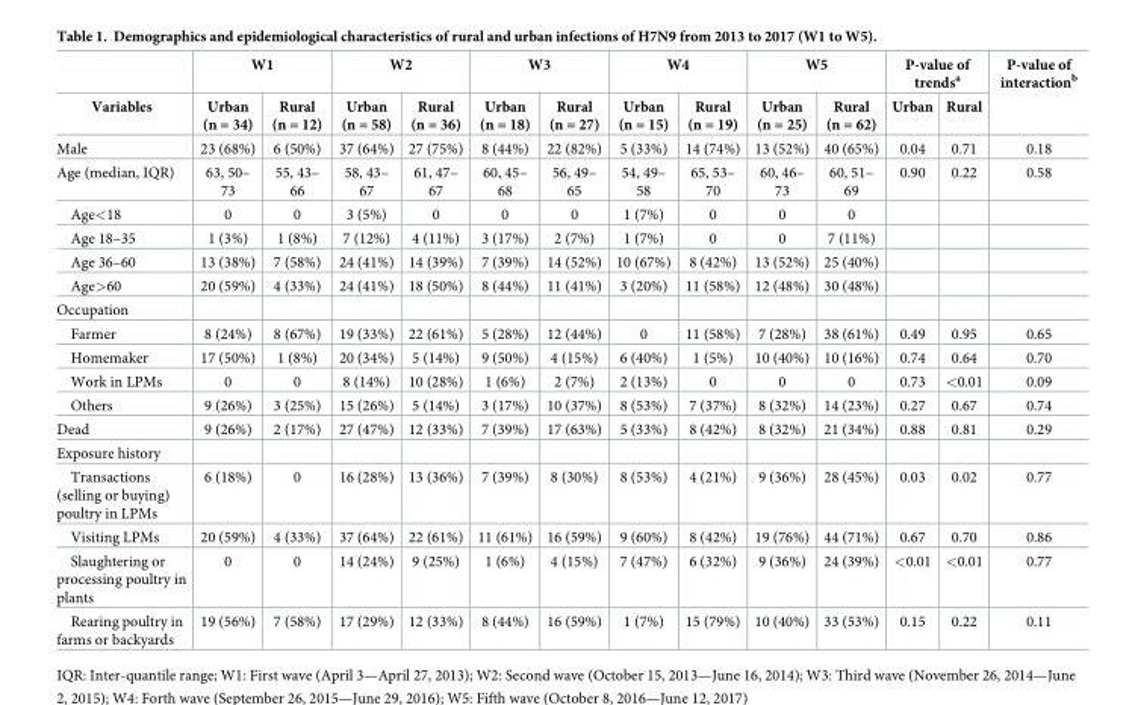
<table><thead><tr><td rowspan="2">Variables</td><td colspan="2">W1</td><td colspan="2">W2</td><td colspan="2">W3</td><td colspan="2">W4</td><td colspan="2">W5</td><td colspan="2">P-value of trends<sup>a</sup></td><td rowspan="2">P-value of interaction<sup>b</sup></td></tr><tr><td>Urban (n = 34)</td><td>Rural (n = 12)</td><td>Urban (n = 58)</td><td>Rural (n = 36)</td><td>Urban (n = 18)</td><td>Rural (n = 27)</td><td>Urban (n = 15)</td><td>Rural (n = 19)</td><td>Urban (n = 25)</td><td>Rural (n = 62)</td><td>Urban</td><td>Rural</td></tr></thead><tbody><tr><td>Male</td><td>23 (68%)</td><td>6 (50%)</td><td>37 (64%)</td><td>27 (75%)</td><td>8 (44%)</td><td>22 (82%)</td><td>5 (33%)</td><td>14 (74%)</td><td>13 (52%)</td><td>40 (65%)</td><td>0.04</td><td>0.71</td><td>0.18</td></tr><tr><td>Age (median, IQR)</td><td>63, 50– 73</td><td>55, 43– 66</td><td>58, 43– 67</td><td>61, 47– 67</td><td>60, 45– 68</td><td>56, 49– 65</td><td>54, 49– 58</td><td>65, 53– 70</td><td>60, 46– 73</td><td>60, 51– 69</td><td>0.90</td><td>0.22</td><td>0.58</td></tr><tr><td>Age&lt;18</td><td>0</td><td>0</td><td>3 (5%)</td><td>0</td><td>0</td><td>0</td><td>1 (7%)</td><td>0</td><td>0</td><td>0</td><td></td><td></td><td></td></tr><tr><td>Age 18–35</td><td>1 (3%)</td><td>1 (8%)</td><td>7 (12%)</td><td>4 (11%)</td><td>3 (17%)</td><td>2 (7%)</td><td>1 (7%)</td><td>0</td><td>0</td><td>7 (11%)</td><td></td><td></td><td></td></tr><tr><td>Age 36–60</td><td>13 (38%)</td><td>7 (58%)</td><td>24 (41%)</td><td>14 (39%)</td><td>7 (39%)</td><td>14 (52%)</td><td>10 (67%)</td><td>8 (42%)</td><td>13 (52%)</td><td>25 (40%)</td><td></td><td></td><td></td></tr><tr><td>Age&gt;60</td><td>20 (59%)</td><td>4 (33%)</td><td>24 (41%)</td><td>18 (50%)</td><td>8 (44%)</td><td>11 (41%)</td><td>3 (20%)</td><td>11 (58%)</td><td>12 (48%)</td><td>30 (48%)</td><td></td><td></td><td></td></tr><tr><td colspan="14">Occupation</td></tr><tr><td>Farmer</td><td>8 (24%)</td><td>8 (67%)</td><td>19 (33%)</td><td>22 (61%)</td><td>5 (28%)</td><td>12 (44%)</td><td>0</td><td>11 (58%)</td><td>7 (28%)</td><td>38 (61%)</td><td>0.49</td><td>0.95</td><td>0.65</td></tr><tr><td>Homemaker</td><td>17 (50%)</td><td>1 (8%)</td><td>20 (34%)</td><td>5 (14%)</td><td>9 (50%)</td><td>4 (15%)</td><td>6 (40%)</td><td>1 (5%)</td><td>10 (40%)</td><td>10 (16%)</td><td>0.74</td><td>0.64</td><td>0.70</td></tr><tr><td>Work in LPMs</td><td>0</td><td>0</td><td>8 (14%)</td><td>10 (28%)</td><td>1 (6%)</td><td>2 (7%)</td><td>2 (13%)</td><td>0</td><td>0</td><td>0</td><td>0.73</td><td>&lt;0.01</td><td>0.09</td></tr><tr><td>Others</td><td>9 (26%)</td><td>3 (25%)</td><td>15 (26%)</td><td>5 (14%)</td><td>3 (17%)</td><td>10 (37%)</td><td>8 (53%)</td><td>7 (37%)</td><td>8 (32%)</td><td>14 (23%)</td><td>0.27</td><td>0.67</td><td>0.74</td></tr><tr><td>Dead</td><td>9 (26%)</td><td>2 (17%)</td><td>27 (47%)</td><td>12 (33%)</td><td>7 (39%)</td><td>17 (63%)</td><td>5 (33%)</td><td>8 (42%)</td><td>8 (32%)</td><td>21 (34%)</td><td>0.88</td><td>0.81</td><td>0.29</td></tr><tr><td colspan="14">Exposure history</td></tr><tr><td>Transactions (selling or buying) poultry in LPMs</td><td>6 (18%)</td><td>0</td><td>16 (28%)</td><td>13 (36%)</td><td>7 (39%)</td><td>8 (30%)</td><td>8 (53%)</td><td>4 (21%)</td><td>9 (36%)</td><td>28 (45%)</td><td>0.03</td><td>0.02</td><td>0.77</td></tr><tr><td>Visiting LPMs</td><td>20 (59%)</td><td>4 (33%)</td><td>37 (64%)</td><td>22 (61%)</td><td>11 (61%)</td><td>16 (59%)</td><td>9 (60%)</td><td>8 (42%)</td><td>19 (76%)</td><td>44 (71%)</td><td>0.67</td><td>0.70</td><td>0.86</td></tr><tr><td>Slaughtering or processing poultry in plants</td><td>0</td><td>0</td><td>14 (24%)</td><td>9 (25%)</td><td>1 (6%)</td><td>4 (15%)</td><td>7 (47%)</td><td>6 (32%)</td><td>9 (36%)</td><td>24 (39%)</td><td>&lt;0.01</td><td>&lt;0.01</td><td>0.77</td></tr><tr><td>Rearing poultry in farms or backyards</td><td>19 (56%)</td><td>7 (58%)</td><td>17 (29%)</td><td>12 (33%)</td><td>8 (44%)</td><td>16 (59%)</td><td>1 (7%)</td><td>15 (79%)</td><td>10 (40%)</td><td>33 (53%)</td><td>0.15</td><td>0.22</td><td>0.11</td></tr></tbody></table>